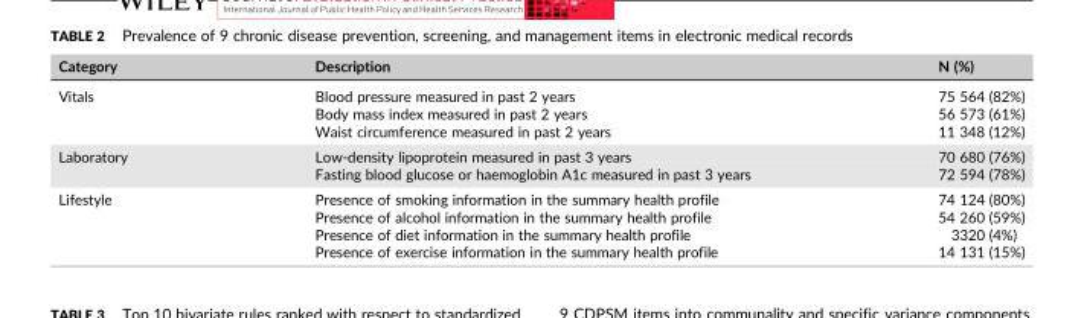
<table><thead><tr><td>Category</td><td>Description</td><td>N (%)</td></tr></thead><tbody><tr><td rowspan="3">Vitals</td><td>Blood pressure measured in past 2 years</td><td>75 564 (82%)</td></tr><tr><td>Body mass index measured in past 2 years</td><td>56 573 (61%)</td></tr><tr><td>Waist circumference measured in past 2 years</td><td>11 348 (12%)</td></tr><tr><td rowspan="2">Laboratory</td><td>Low‐density lipoprotein measured in past 3 years</td><td>70 680 (76%)</td></tr><tr><td>Fasting blood glucose or haemoglobin A1c measured in past 3 years</td><td>72 594 (78%)</td></tr><tr><td rowspan="4">Lifestyle</td><td>Presence of smoking information in the summary health profile</td><td>74 124 (80%)</td></tr><tr><td>Presence of alcohol information in the summary health profile</td><td>54 260 (59%)</td></tr><tr><td>Presence of diet information in the summary health profile</td><td>3320 (4%)</td></tr><tr><td>Presence of exercise information in the summary health profile</td><td>14 131 (15%)</td></tr></tbody></table>